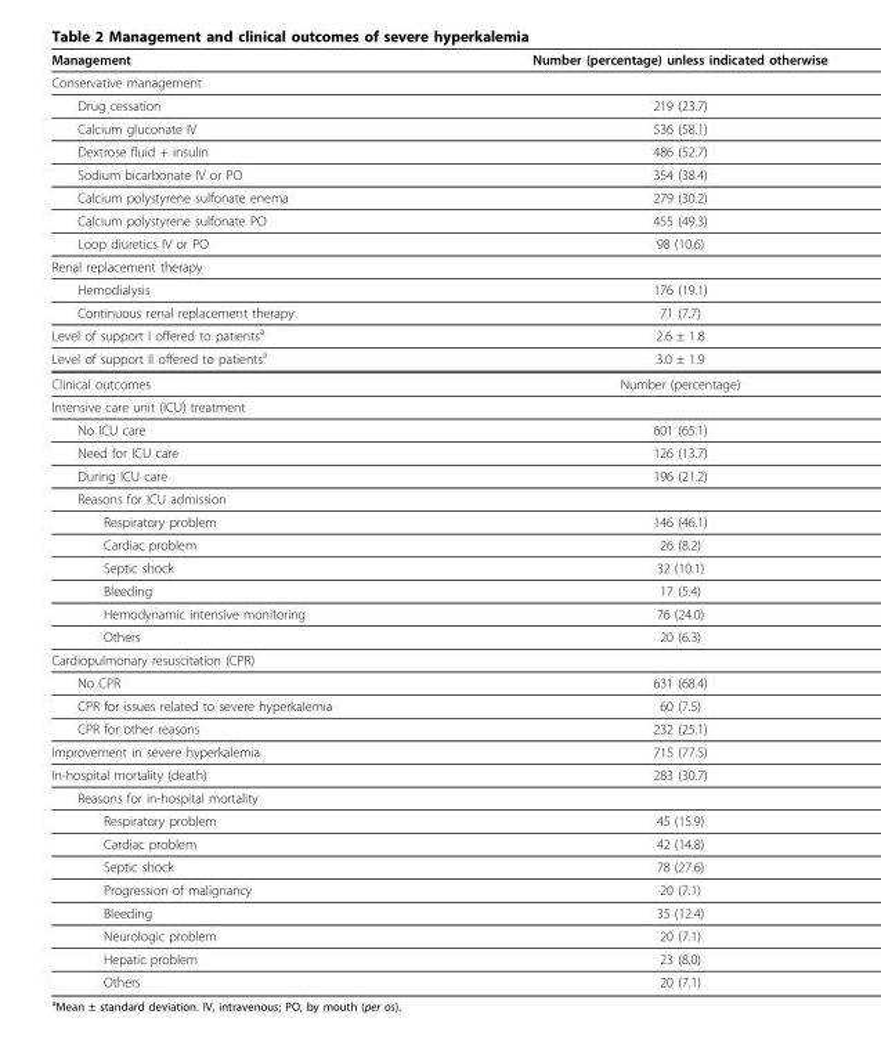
<table><thead><tr><td>Management</td><td>Number (percentage) unless indicated otherwise</td></tr></thead><tbody><tr><td colspan="2">Conservative management</td></tr><tr><td>Drug cessation</td><td>219 (23.7)</td></tr><tr><td>Calcium gluconate IV</td><td>536 (58.1)</td></tr><tr><td>Dextrose fluid + insulin</td><td>486 (52.7)</td></tr><tr><td>Sodium bicarbonate IV or PO</td><td>354 (38.4)</td></tr><tr><td>Calcium polystyrene sulfonate enema</td><td>279 (30.2)</td></tr><tr><td>Calcium polystyrene sulfonate PO</td><td>455 (49.3)</td></tr><tr><td>Loop diuretics IV or PO</td><td>98 (10.6)</td></tr><tr><td colspan="2">Renal replacement therapy</td></tr><tr><td>Hemodialysis</td><td>176 (19.1)</td></tr><tr><td>Continuous renal replacement therapy</td><td>71 (7.7)</td></tr><tr><td>Level of support I offered to patientsa</td><td>2.6 ± 1.8</td></tr><tr><td>Level of support II offered to patientsa</td><td>3.0 ± 1.9</td></tr><tr><td>Clinical outcomes</td><td>Number (percentage)</td></tr><tr><td colspan="2">Intensive care unit (ICU) treatment</td></tr><tr><td>No ICU care</td><td>601 (65.1)</td></tr><tr><td>Need for ICU care</td><td>126 (13.7)</td></tr><tr><td>During ICU care</td><td>196 (21.2)</td></tr><tr><td colspan="2">Reasons for ICU admission</td></tr><tr><td>Respiratory problem</td><td>146 (46.1)</td></tr><tr><td>Cardiac problem</td><td>26 (8.2)</td></tr><tr><td>Septic shock</td><td>32 (10.1)</td></tr><tr><td>Bleeding</td><td>17 (5.4)</td></tr><tr><td>Hemodynamic intensive monitoring</td><td>76 (24.0)</td></tr><tr><td>Others</td><td>20 (6.3)</td></tr><tr><td colspan="2">Cardiopulmonary resuscitation (CPR)</td></tr><tr><td>No CPR</td><td>631 (68.4)</td></tr><tr><td>CPR for issues related to severe hyperkalemia</td><td>60 (7.5)</td></tr><tr><td>CPR for other reasons</td><td>232 (25.1)</td></tr><tr><td>Improvement in severe hyperkalemia</td><td>715 (77.5)</td></tr><tr><td>In-hospital mortality (death)</td><td>283 (30.7)</td></tr><tr><td colspan="2">Reasons for in-hospital mortality</td></tr><tr><td>Respiratory problem</td><td>45 (15.9)</td></tr><tr><td>Cardiac problem</td><td>42 (14.8)</td></tr><tr><td>Septic shock</td><td>78 (27.6)</td></tr><tr><td>Progression of malignancy</td><td>20 (7.1)</td></tr><tr><td>Bleeding</td><td>35 (12.4)</td></tr><tr><td>Neurologic problem</td><td>20 (7.1)</td></tr><tr><td>Hepatic problem</td><td>23 (8.0)</td></tr><tr><td>Others</td><td>20 (7.1)</td></tr></tbody></table>